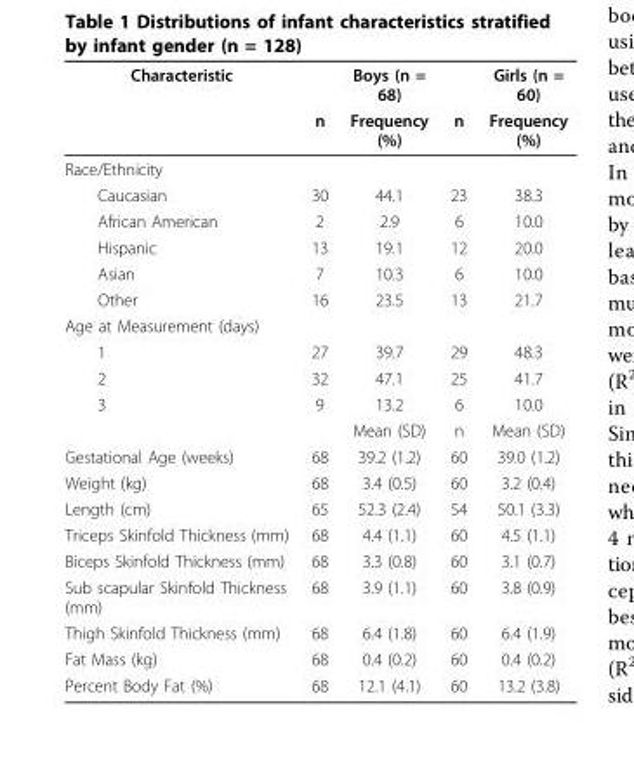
<table><thead><tr><td rowspan="2">Characteristic</td><td rowspan="2">n</td><td rowspan="2">Boys (n = 68) Frequency (%)</td><td rowspan="2">n</td><td rowspan="2">Girls (n = 60) Frequency (%)</td></tr><tr></tr></thead><tbody><tr><td colspan="5">Race/Ethnicity</td></tr><tr><td>Caucasian</td><td>30</td><td>44.1</td><td>23</td><td>38.3</td></tr><tr><td>African American</td><td>2</td><td>2.9</td><td>6</td><td>10.0</td></tr><tr><td>Hispanic</td><td>13</td><td>19.1</td><td>12</td><td>20.0</td></tr><tr><td>Asian</td><td>7</td><td>10.3</td><td>6</td><td>10.0</td></tr><tr><td>Other</td><td>16</td><td>23.5</td><td>13</td><td>21.7</td></tr><tr><td colspan="5">Age at Measurement (days)</td></tr><tr><td>1</td><td>27</td><td>39.7</td><td>29</td><td>48.3</td></tr><tr><td>2</td><td>32</td><td>47.1</td><td>25</td><td>41.7</td></tr><tr><td rowspan="2">3</td><td>9</td><td>13.2</td><td>6</td><td>10.0</td></tr><tr><td></td><td>Mean (SD)</td><td>n</td><td>Mean (SD)</td></tr><tr><td>Gestational Age (weeks)</td><td>68</td><td>39.2 (1.2)</td><td>60</td><td>39.0 (1.2)</td></tr><tr><td>Weight (kg)</td><td>68</td><td>3.4 (0.5)</td><td>60</td><td>3.2 (0.4)</td></tr><tr><td>Length (cm)</td><td>65</td><td>52.3 (2.4)</td><td>54</td><td>50.1 (3.3)</td></tr><tr><td>Triceps Skinfold Thickness (mm)</td><td>68</td><td>4.4 (1.1)</td><td>60</td><td>4.5 (1.1)</td></tr><tr><td>Biceps Skinfold Thickness (mm)</td><td>68</td><td>3.3 (0.8)</td><td>60</td><td>3.1 (0.7)</td></tr><tr><td>Sub scapular Skinfold Thickness (mm)</td><td>68</td><td>3.9 (1.1)</td><td>60</td><td>3.8 (0.9)</td></tr><tr><td>Thigh Skinfold Thickness (mm)</td><td>68</td><td>6.4 (1.8)</td><td>60</td><td>6.4 (1.9)</td></tr><tr><td>Fat Mass (kg)</td><td>68</td><td>0.4 (0.2)</td><td>60</td><td>0.4 (0.2)</td></tr><tr><td>Percent Body Fat (%)</td><td>68</td><td>12.1 (4.1)</td><td>60</td><td>13.2 (3.8)</td></tr></tbody></table>